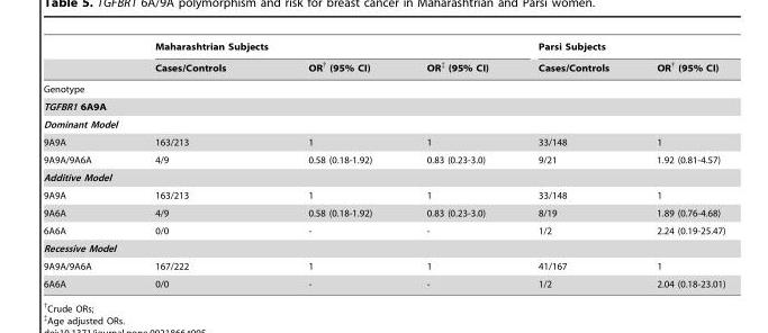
<table><thead><tr><td rowspan="2"></td><td colspan="3">Maharashtrian Subjects</td><td colspan="2">Parsi Subjects</td></tr><tr><td>Cases/Controls</td><td>OR† (95% CI)</td><td>OR‡ (95% CI)</td><td>Cases/Controls</td><td>OR† (95% CI)</td></tr></thead><tbody><tr><td colspan="6">Genotype</td></tr><tr><td colspan="6">TGFBR1 6A9A</td></tr><tr><td colspan="6">Dominant Model</td></tr><tr><td>9A9A</td><td>163/213</td><td>1</td><td>1</td><td>33/148</td><td>1</td></tr><tr><td>9A9A/9A6A</td><td>4/9</td><td>0.58 (0.18-1.92)</td><td>0.83 (0.23-3.0)</td><td>9/21</td><td>1.92 (0.81-4.57)</td></tr><tr><td colspan="6">Additive Model</td></tr><tr><td>9A9A</td><td>163/213</td><td>1</td><td>1</td><td>33/148</td><td>1</td></tr><tr><td>9A6A</td><td>4/9</td><td>0.58 (0.18-1.92)</td><td>0.83 (0.23-3.0)</td><td>8/19</td><td>1.89 (0.76-4.68)</td></tr><tr><td>6A6A</td><td>0/0</td><td>-</td><td>-</td><td>1/2</td><td>2.24 (0.19-25.47)</td></tr><tr><td colspan="6">Recessive Model</td></tr><tr><td>9A9A/9A6A</td><td>167/222</td><td>1</td><td>1</td><td>41/167</td><td>1</td></tr><tr><td>6A6A</td><td>0/0</td><td>-</td><td>-</td><td>1/2</td><td>2.04 (0.18-23.01)</td></tr></tbody></table>